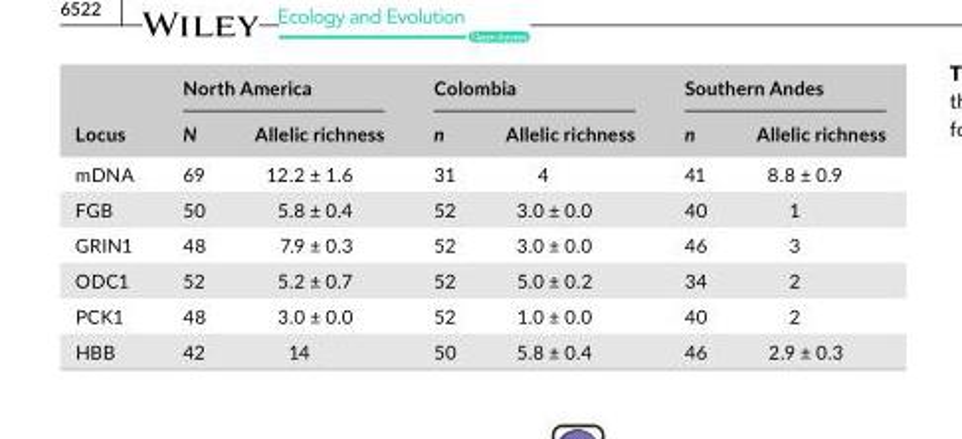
<table><thead><tr><td rowspan="2">Locus</td><td colspan="2">North America</td><td colspan="2">Colombia</td><td colspan="2">Southern Andes</td></tr><tr><td>N</td><td>Allelic richness</td><td>n</td><td>Allelic richness</td><td>n</td><td>Allelic richness</td></tr></thead><tbody><tr><td>mDNA</td><td>69</td><td>12.2 ± 1.6</td><td>31</td><td>4</td><td>41</td><td>8.8 ± 0.9</td></tr><tr><td>FGB</td><td>50</td><td>5.8 ± 0.4</td><td>52</td><td>3.0 ± 0.0</td><td>40</td><td>1</td></tr><tr><td>GRIN1</td><td>48</td><td>7.9 ± 0.3</td><td>52</td><td>3.0 ± 0.0</td><td>46</td><td>3</td></tr><tr><td>ODC1</td><td>52</td><td>5.2 ± 0.7</td><td>52</td><td>5.0 ± 0.2</td><td>34</td><td>2</td></tr><tr><td>PCK1</td><td>48</td><td>3.0 ± 0.0</td><td>52</td><td>1.0 ± 0.0</td><td>40</td><td>2</td></tr><tr><td>HBB</td><td>42</td><td>14</td><td>50</td><td>5.8 ± 0.4</td><td>46</td><td>2.9 ± 0.3</td></tr></tbody></table>